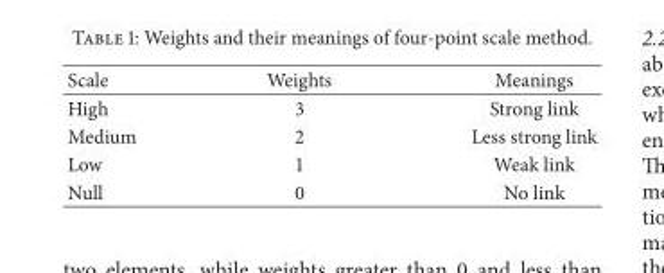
<table><thead><tr><td>Scale</td><td>Weights</td><td>Meanings</td></tr></thead><tbody><tr><td>High</td><td>3</td><td>Strong link</td></tr><tr><td>Medium</td><td>2</td><td>Less strong link</td></tr><tr><td>Low</td><td>1</td><td>Weak link</td></tr><tr><td>Null</td><td>0</td><td>No link</td></tr></tbody></table>